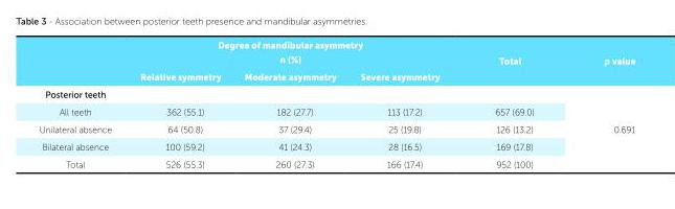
<table><thead><tr><td rowspan="2"></td><td colspan="3">Degree of mandibular asymmetry n (%)</td><td rowspan="2">Total</td><td rowspan="2">p value</td></tr><tr><td>Relative symmetry</td><td>Moderate asymmetry</td><td>Severe asymmetry</td></tr></thead><tbody><tr><td colspan="5">Posterior teeth</td><td rowspan="5">0.691</td></tr><tr><td>All teeth</td><td>362 (55.1)</td><td>182 (27.7)</td><td>113 (17.2)</td><td>657 (69.0)</td></tr><tr><td>Unilateral absence</td><td>64 (50.8)</td><td>37 (29.4)</td><td>25 (19.8)</td><td>126 (13.2)</td></tr><tr><td>Bilateral absence</td><td>100 (59.2)</td><td>41 (24.3)</td><td>28 (16.5)</td><td>169 (17.8)</td></tr><tr><td>Total</td><td>526 (55.3)</td><td>260 (27.3)</td><td>166 (17.4)</td><td>952 (100)</td></tr></tbody></table>